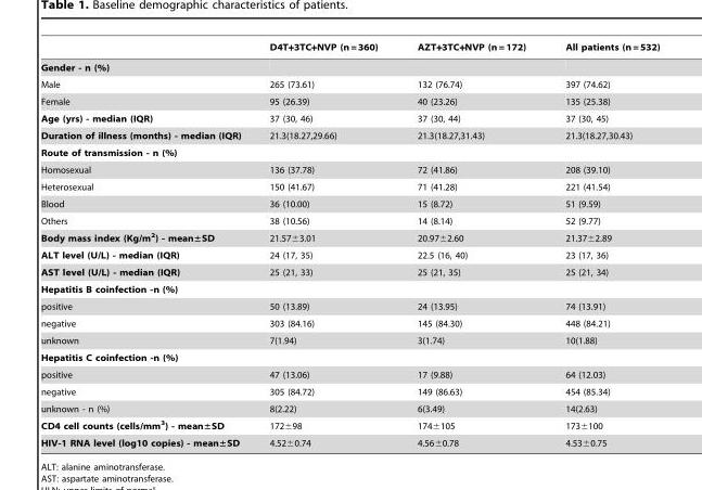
<table><thead><tr><td></td><td>D4T+3TC+NVP (n = 360)</td><td>AZT+3TC+NVP (n = 172)</td><td>All patients (n = 532)</td></tr></thead><tbody><tr><td colspan="4">Gender - n (%)</td></tr><tr><td>Male</td><td>265 (73.61)</td><td>132 (76.74)</td><td>397 (74.62)</td></tr><tr><td>Female</td><td>95 (26.39)</td><td>40 (23.26)</td><td>135 (25.38)</td></tr><tr><td>Age (yrs) - median (IQR)</td><td>37 (30, 46)</td><td>37 (30, 44)</td><td>37 (30, 45)</td></tr><tr><td>Duration of illness (months) - median (IQR)</td><td>21.3(18.27,29.66)</td><td>21.3(18.27,31.43)</td><td>21.3(18.27,30.43)</td></tr><tr><td colspan="4">Route of transmission - n (%)</td></tr><tr><td>Homosexual</td><td>136 (37.78)</td><td>72 (41.86)</td><td>208 (39.10)</td></tr><tr><td>Heterosexual</td><td>150 (41.67)</td><td>71 (41.28)</td><td>221 (41.54)</td></tr><tr><td>Blood</td><td>36 (10.00)</td><td>15 (8.72)</td><td>51 (9.59)</td></tr><tr><td>Others</td><td>38 (10.56)</td><td>14 (8.14)</td><td>52 (9.77)</td></tr><tr><td>Body mass index (Kg/m<sup>2</sup>) - mean±SD</td><td>21.57±3.01</td><td>20.97±2.60</td><td>21.37±2.89</td></tr><tr><td>ALT level (U/L) - median (IQR)</td><td>24 (17, 35)</td><td>22.5 (16, 40)</td><td>23 (17, 36)</td></tr><tr><td>AST level (U/L) - median (IQR)</td><td>25 (21, 33)</td><td>25 (21, 35)</td><td>25 (21, 34)</td></tr><tr><td colspan="4">Hepatitis B coinfection -n (%)</td></tr><tr><td>positive</td><td>50 (13.89)</td><td>24 (13.95)</td><td>74 (13.91)</td></tr><tr><td>negative</td><td>303 (84.16)</td><td>145 (84.30)</td><td>448 (84.21)</td></tr><tr><td>unknown</td><td>7(1.94)</td><td>3(1.74)</td><td>10(1.88)</td></tr><tr><td colspan="4">Hepatitis C coinfection -n (%)</td></tr><tr><td>positive</td><td>47 (13.06)</td><td>17 (9.88)</td><td>64 (12.03)</td></tr><tr><td>negative</td><td>305 (84.72)</td><td>149 (86.63)</td><td>454 (85.34)</td></tr><tr><td>unknown - n (%)</td><td>8(2.22)</td><td>6(3.49)</td><td>14(2.63)</td></tr><tr><td>CD4 cell counts (cells/mm<sup>3</sup>) - mean±SD</td><td>172±98</td><td>174±105</td><td>173±100</td></tr><tr><td>HIV-1 RNA level (log10 copies) - mean±SD</td><td>4.52±0.74</td><td>4.56±0.78</td><td>4.53±0.75</td></tr></tbody></table>